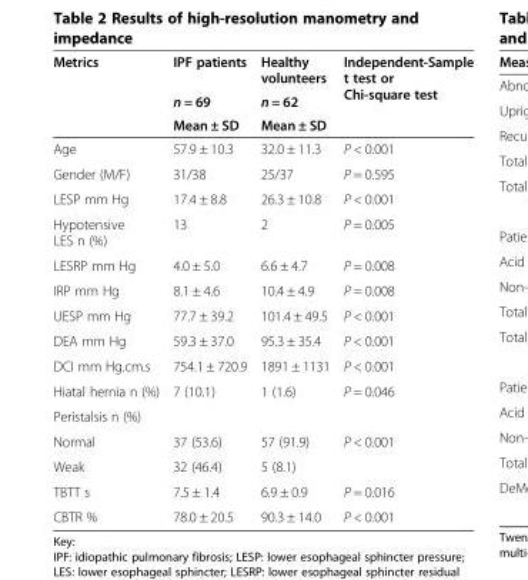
<table><thead><tr><td rowspan="3">Metrics</td><td rowspan="3">IPF patients n = 69 Mean ± SD</td><td rowspan="3">Healthy volunteers n = 62 Mean ± SD</td><td rowspan="3">Independent-Sample t test or Chi-square test</td></tr><tr></tr><tr></tr></thead><tbody><tr><td>Age</td><td>57.9 ± 10.3</td><td>32.0 ± 11.3</td><td>P &lt; 0.001</td></tr><tr><td>Gender (M/F)</td><td>31/38</td><td>25/37</td><td>P = 0.595</td></tr><tr><td>LESP mm Hg</td><td>17.4 ± 8.8</td><td>26.3 ± 10.8</td><td>P &lt; 0.001</td></tr><tr><td>Hypotensive LES n (%)</td><td>13</td><td>2</td><td>P = 0.005</td></tr><tr><td>LESRP mm Hg</td><td>4.0 ± 5.0</td><td>6.6 ± 4.7</td><td>P = 0.008</td></tr><tr><td>IRP mm Hg</td><td>8.1 ± 4.6</td><td>10.4 ± 4.9</td><td>P = 0.008</td></tr><tr><td>UESP mm Hg</td><td>77.7 ± 39.2</td><td>101.4 ± 49.5</td><td>P &lt; 0.001</td></tr><tr><td>DEA mm Hg</td><td>59.3 ± 37.0</td><td>95.3 ± 35.4</td><td>P &lt; 0.001</td></tr><tr><td>DCI mm Hg.cm.s</td><td>754.1 ± 720.9</td><td>1891 ± 1131</td><td>P &lt; 0.001</td></tr><tr><td>Hiatal hernia n (%)</td><td>7 (10.1)</td><td>1 (1.6)</td><td>P = 0.046</td></tr><tr><td colspan="4">Peristalsis n (%)</td></tr><tr><td>Normal</td><td>37 (53.6)</td><td>57 (91.9)</td><td rowspan="2">P &lt; 0.001</td></tr><tr><td>Weak</td><td>32 (46.4)</td><td>5 (8.1)</td></tr><tr><td>TBTT s</td><td>7.5 ± 1.4</td><td>6.9 ± 0.9</td><td>P = 0.016</td></tr><tr><td>CBTR %</td><td>78.0 ± 20.5</td><td>90.3 ± 14.0</td><td>P &lt; 0.001</td></tr></tbody></table>